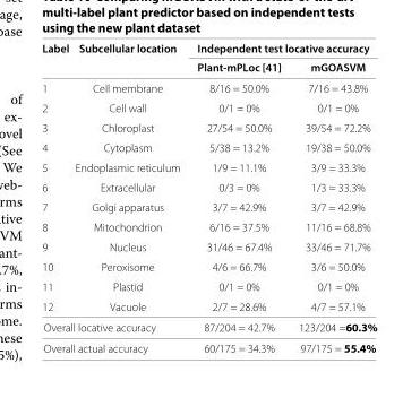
<table><thead><tr><td rowspan="2">Label</td><td rowspan="2">Subcellular location</td><td colspan="2">Independent test locative accuracy</td></tr><tr><td>Plant-mPLoc [41]</td><td>mGOASVM</td></tr></thead><tbody><tr><td>1</td><td>Cell membrane</td><td>8/16 = 50.0%</td><td>7/16 = 43.8%</td></tr><tr><td>2</td><td>Cell wall</td><td>0/1 = 0%</td><td>0/1 = 0%</td></tr><tr><td>3</td><td>Chloroplast</td><td>27/54 = 50.0%</td><td>39/54 = 72.2%</td></tr><tr><td>4</td><td>Cytoplasm</td><td>5/38 = 13.2%</td><td>19/38 = 50.0%</td></tr><tr><td>5</td><td>Endoplasmic reticulum</td><td>1/9 = 11.1%</td><td>3/9 = 33.3%</td></tr><tr><td>6</td><td>Extracellular</td><td>0/3 = 0%</td><td>1/3 = 33.3%</td></tr><tr><td>7</td><td>Golgi apparatus</td><td>3/7 = 42.9%</td><td>3/7 = 42.9%</td></tr><tr><td>8</td><td>Mitochondrion</td><td>6/16 = 37.5%</td><td>11/16 = 68.8%</td></tr><tr><td>9</td><td>Nucleus</td><td>31/46 = 67.4%</td><td>33/46 = 71.7%</td></tr><tr><td>10</td><td>Peroxisome</td><td>4/6 = 66.7%</td><td>3/6 = 50.0%</td></tr><tr><td>11</td><td>Plastid</td><td>0/1 = 0%</td><td>0/1 = 0%</td></tr><tr><td>12</td><td>Vacuole</td><td>2/7 = 28.6%</td><td>4/7 = 57.1%</td></tr><tr><td colspan="2">Overall locative accuracy</td><td>87/204 = 42.7%</td><td>123/204 =60.3%</td></tr><tr><td colspan="2">Overall actual accuracy</td><td>60/175 = 34.3%</td><td>97/175 = 55.4%</td></tr></tbody></table>